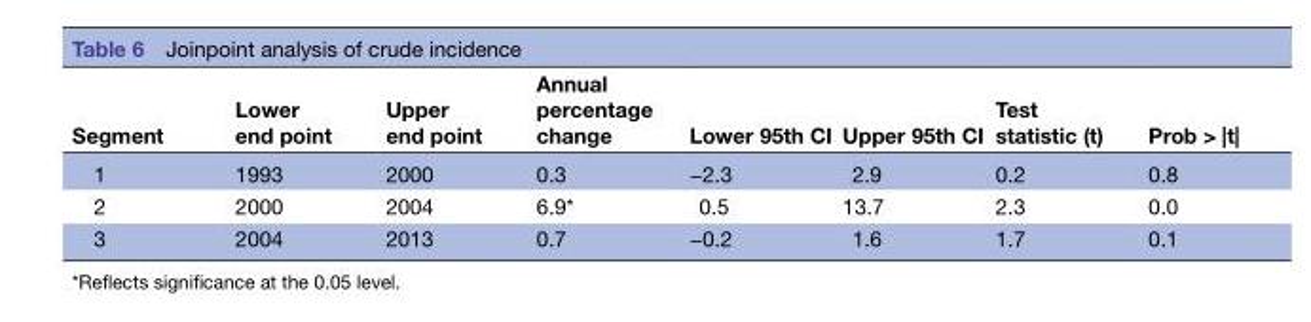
<table><thead><tr><td>Segment</td><td>Lower end point</td><td>Upper end point</td><td>Annual percentage change</td><td>Lower 95th CI</td><td>Upper 95th CI</td><td>Test statistic (t)</td><td>Prob &gt; |t|</td></tr></thead><tbody><tr><td>1</td><td>1993</td><td>2000</td><td>0.3</td><td>−2.3</td><td>2.9</td><td>0.2</td><td>0.8</td></tr><tr><td>2</td><td>2000</td><td>2004</td><td>6.9*</td><td>0.5</td><td>13.7</td><td>2.3</td><td>0.0</td></tr><tr><td>3</td><td>2004</td><td>2013</td><td>0.7</td><td>−0.2</td><td>1.6</td><td>1.7</td><td>0.1</td></tr></tbody></table>